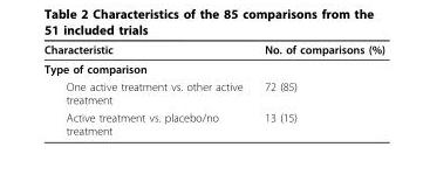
<table><thead><tr><td>Characteristic</td><td>No. of comparisons (%)</td></tr></thead><tbody><tr><td colspan="2">Type of comparison</td></tr><tr><td>One active treatment vs. other active treatment</td><td>72 (85)</td></tr><tr><td>Active treatment vs. placebo/no treatment</td><td>13 (15)</td></tr></tbody></table>